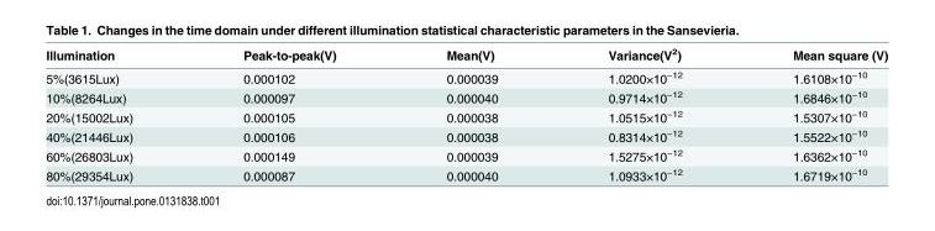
<table><thead><tr><td>Illumination</td><td>Peak-to-peak(V)</td><td>Mean(V)</td><td>Variance(V<sup>2</sup>)</td><td>Mean square (V)</td></tr></thead><tbody><tr><td>5%(3615Lux)</td><td>0.000102</td><td>0.000039</td><td>1.0200×10<sup>−12</sup></td><td>1.6108×10<sup>−10</sup></td></tr><tr><td>10%(8264Lux)</td><td>0.000097</td><td>0.000040</td><td>0.9714×10<sup>−12</sup></td><td>1.6846×10<sup>−10</sup></td></tr><tr><td>20%(15002Lux)</td><td>0.000105</td><td>0.000038</td><td>1.0515×10<sup>−12</sup></td><td>1.5307×10<sup>−10</sup></td></tr><tr><td>40%(21446Lux)</td><td>0.000106</td><td>0.000038</td><td>0.8314×10<sup>−12</sup></td><td>1.5522×10<sup>−10</sup></td></tr><tr><td>60%(26803Lux)</td><td>0.000149</td><td>0.000039</td><td>1.5275×10<sup>−12</sup></td><td>1.6362×10<sup>−10</sup></td></tr><tr><td>80%(29354Lux)</td><td>0.000087</td><td>0.000040</td><td>1.0933×10<sup>−12</sup></td><td>1.6719×10<sup>−10</sup></td></tr></tbody></table>